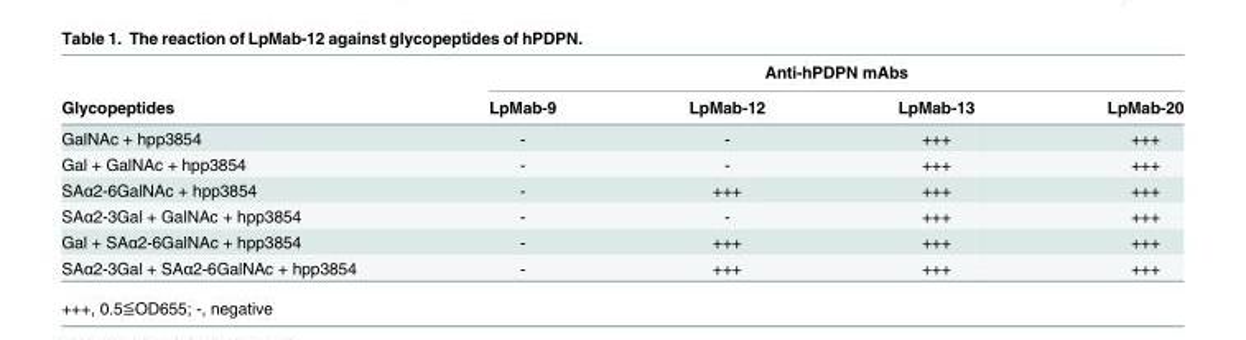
<table><thead><tr><td rowspan="2">Glycopeptides</td><td colspan="4">Anti-hPDPN mAbs</td></tr><tr><td>LpMab-9</td><td>LpMab-12</td><td>LpMab-13</td><td>LpMab-20</td></tr></thead><tbody><tr><td>GalNAc + hpp3854</td><td>-</td><td>-</td><td>+++</td><td>+++</td></tr><tr><td>Gal + GalNAc + hpp3854</td><td>-</td><td>-</td><td>+++</td><td>+++</td></tr><tr><td>SAα2-6GalNAc + hpp3854</td><td>-</td><td>+++</td><td>+++</td><td>+++</td></tr><tr><td>SAα2-3Gal + GalNAc + hpp3854</td><td>-</td><td>-</td><td>+++</td><td>+++</td></tr><tr><td>Gal + SAα2-6GalNAc + hpp3854</td><td>-</td><td>+++</td><td>+++</td><td>+++</td></tr><tr><td>SAα2-3Gal + SAα2-6GalNAc + hpp3854</td><td>-</td><td>+++</td><td>+++</td><td>+++</td></tr></tbody></table>